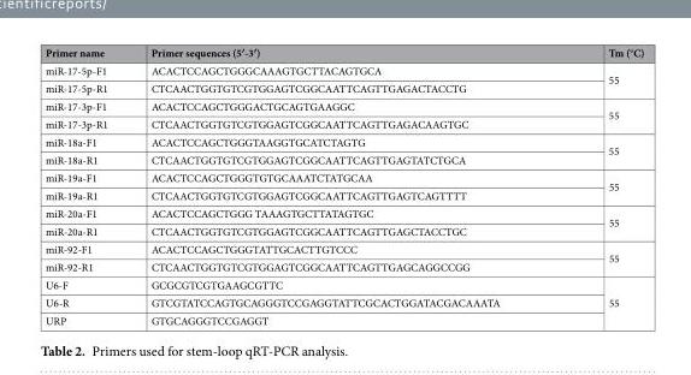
<table><thead><tr><td>Primer name</td><td>Primer sequences (5′-3′)</td><td>Tm (°C)</td></tr></thead><tbody><tr><td>miR-17-5p-F1</td><td>ACACTCCAGCTGGGCAAAGTGCTTACAGTGCA</td><td rowspan="2">55</td></tr><tr><td>miR-17-5p-R1</td><td>CTCAACTGGTGTCGTGGAGTCGGCAATTCAGTTGAGACTACCTG</td></tr><tr><td>miR-17-3p-F1</td><td>ACACTCCAGCTGGGACTGCAGTGAAGGC</td><td rowspan="2">55</td></tr><tr><td>miR-17-3p-R1</td><td>CTCAACTGGTGTCGTGGAGTCGGCAATTCAGTTGAGACAAGTGC</td></tr><tr><td>miR-18a-F1</td><td>ACACTCCAGCTGGGTAAGGTGCATCTAGTG</td><td rowspan="2">55</td></tr><tr><td>miR-18a-R1</td><td>CTCAACTGGTGTCGTGGAGTCGGCAATTCAGTTGAGTATCTGCA</td></tr><tr><td>miR-19a-F1</td><td>ACACTCCAGCTGGGTGTGCAAATCTATGCAA</td><td rowspan="2">55</td></tr><tr><td>miR-19a-R1</td><td>CTCAACTGGTGTCGTGGAGTCGGCAATTCAGTTGAGTCAGTTTT</td></tr><tr><td>miR-20a-F1</td><td>ACACTCCAGCTGGG TAAAGTGCTTATAGTGC</td><td rowspan="2">55</td></tr><tr><td>miR-20a-R1</td><td>CTCAACTGGTGTCGTGGAGTCGGCAATTCAGTTGAGCTACCTGC</td></tr><tr><td>miR-92-F1</td><td>ACACTCCAGCTGGGTATTGCACTTGTCCC</td><td rowspan="2">55</td></tr><tr><td>miR-92-R1</td><td>CTCAACTGGTGTCGTGGAGTCGGCAATTCAGTTGAGCAGGCCGG</td></tr><tr><td>U6-F</td><td>GCGCGTCGTGAAGCGTTC</td><td rowspan="3">55</td></tr><tr><td>U6-R</td><td>GTCGTATCCAGTGCAGGGTCCGAGGTATTCGCACTGGATACGACAAATA</td></tr><tr><td>URP</td><td>GTGCAGGGTCCGAGGT</td></tr></tbody></table>